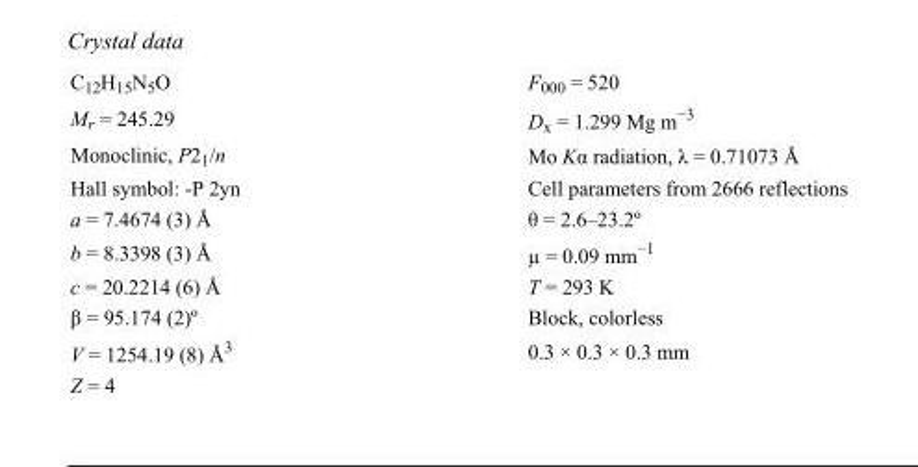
<table><tbody><tr><td>C<sub>12</sub>H<sub>15</sub>N<sub>5</sub>O</td><td>F000 = 520</td></tr><tr><td>M<sub>r</sub> = 245.29</td><td>D<sub>x</sub> = 1.299 Mg m<sup>−3</sup></td></tr><tr><td>Monoclinic, P2<sub>1</sub>/n</td><td>Mo Kα radiation, λ = 0.71073 Å</td></tr><tr><td>Hall symbol: -P 2yn</td><td>Cell parameters from 2666 reflections</td></tr><tr><td>a = 7.4674 (3) Å</td><td>θ = 2.6–23.2º</td></tr><tr><td>b = 8.3398 (3) Å</td><td>µ = 0.09 mm<sup>−1</sup></td></tr><tr><td>c = 20.2214 (6) Å</td><td>T = 293 K</td></tr><tr><td>β = 95.174 (2)º</td><td>Block, colorless</td></tr><tr><td>V = 1254.19 (8) Å<sup>3</sup></td><td>0.3 × 0.3 × 0.3 mm</td></tr><tr><td>Z = 4</td><td></td></tr></tbody></table>